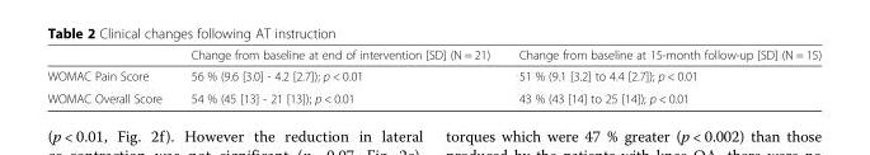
<table><thead><tr><td></td><td>Change from baseline at end of intervention [SD] (N = 21)</td><td>Change from baseline at 15-month follow-up [SD] (N = 15)</td></tr></thead><tbody><tr><td>WOMAC Pain Score</td><td>56 % (9.6 [3.0] - 4.2 [2.7]); p &lt; 0.01</td><td>51 % (9.1 [3.2] to 4.4 [2.7]); p &lt; 0.01</td></tr><tr><td>WOMAC Overall Score</td><td>54 % (45 [13] - 21 [13]); p &lt; 0.01</td><td>43 % (43 [14] to 25 [14]); p &lt; 0.01</td></tr></tbody></table>